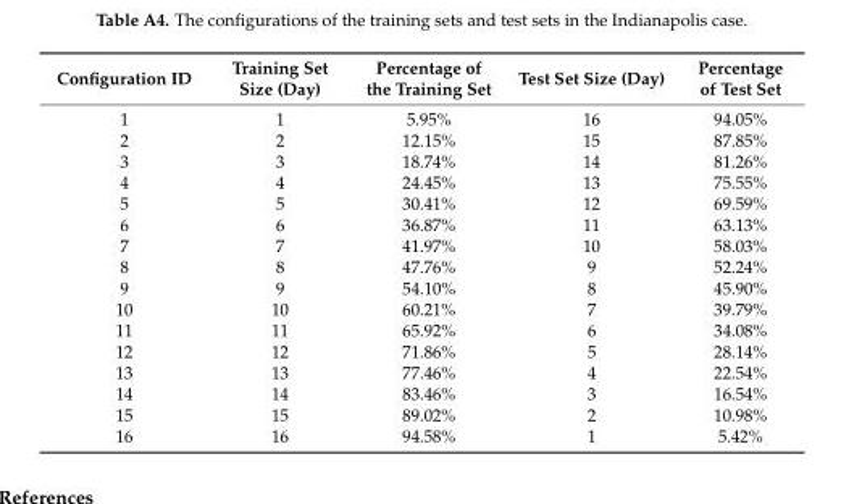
<table><thead><tr><td>Configuration ID</td><td>Training Set Size (Day)</td><td>Percentage of the Training Set</td><td>Test Set Size (Day)</td><td>Percentage of Test Set</td></tr></thead><tbody><tr><td>1</td><td>1</td><td>5.95%</td><td>16</td><td>94.05%</td></tr><tr><td>2</td><td>2</td><td>12.15%</td><td>15</td><td>87.85%</td></tr><tr><td>3</td><td>3</td><td>18.74%</td><td>14</td><td>81.26%</td></tr><tr><td>4</td><td>4</td><td>24.45%</td><td>13</td><td>75.55%</td></tr><tr><td>5</td><td>5</td><td>30.41%</td><td>12</td><td>69.59%</td></tr><tr><td>6</td><td>6</td><td>36.87%</td><td>11</td><td>63.13%</td></tr><tr><td>7</td><td>7</td><td>41.97%</td><td>10</td><td>58.03%</td></tr><tr><td>8</td><td>8</td><td>47.76%</td><td>9</td><td>52.24%</td></tr><tr><td>9</td><td>9</td><td>54.10%</td><td>8</td><td>45.90%</td></tr><tr><td>10</td><td>10</td><td>60.21%</td><td>7</td><td>39.79%</td></tr><tr><td>11</td><td>11</td><td>65.92%</td><td>6</td><td>34.08%</td></tr><tr><td>12</td><td>12</td><td>71.86%</td><td>5</td><td>28.14%</td></tr><tr><td>13</td><td>13</td><td>77.46%</td><td>4</td><td>22.54%</td></tr><tr><td>14</td><td>14</td><td>83.46%</td><td>3</td><td>16.54%</td></tr><tr><td>15</td><td>15</td><td>89.02%</td><td>2</td><td>10.98%</td></tr><tr><td>16</td><td>16</td><td>94.58%</td><td>1</td><td>5.42%</td></tr></tbody></table>